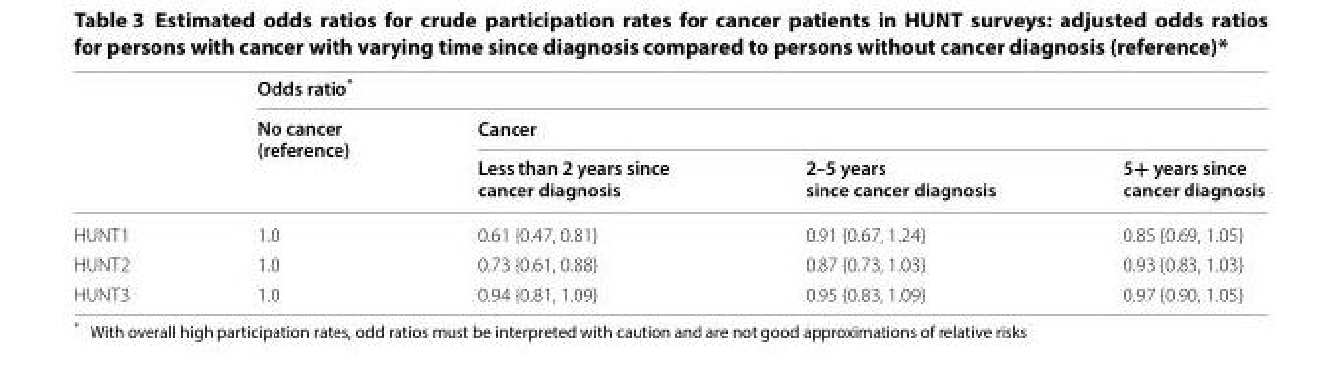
<table><thead><tr><td rowspan="3"></td><td colspan="4">Odds ratio*</td></tr><tr><td rowspan="2">No cancer (reference)</td><td colspan="3">Cancer</td></tr><tr><td>Less than 2 years since cancer diagnosis</td><td>2–5 years since cancer diagnosis</td><td>5+ years since cancer diagnosis</td></tr></thead><tbody><tr><td>HUNT1</td><td>1.0</td><td>0.61 {0.47, 0.81}</td><td>0.91 {0.67, 1.24}</td><td>0.85 {0.69, 1.05}</td></tr><tr><td>HUNT2</td><td>1.0</td><td>0.73 {0.61, 0.88}</td><td>0.87 {0.73, 1.03}</td><td>0.93 {0.83, 1.03}</td></tr><tr><td>HUNT3</td><td>1.0</td><td>0.94 {0.81, 1.09}</td><td>0.95 {0.83, 1.09}</td><td>0.97 {0.90, 1.05}</td></tr></tbody></table>